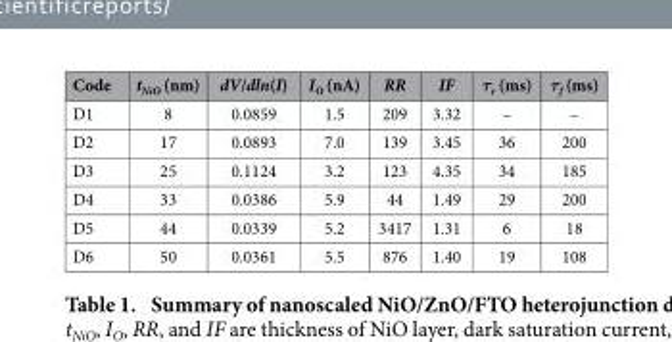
<table><thead><tr><td>Code</td><td>t<sub>NiO</sub> (nm)</td><td>dV/dln(I)</td><td>I<sub>O</sub> (nA)</td><td>RR</td><td>IF</td><td>τ<sub>r</sub> (ms)</td><td>τ<sub>f</sub> (ms)</td></tr></thead><tbody><tr><td>D1</td><td>8</td><td>0.0859</td><td>1.5</td><td>209</td><td>3.32</td><td>–</td><td>–</td></tr><tr><td>D2</td><td>17</td><td>0.0893</td><td>7.0</td><td>139</td><td>3.45</td><td>36</td><td>200</td></tr><tr><td>D3</td><td>25</td><td>0.1124</td><td>3.2</td><td>123</td><td>4.35</td><td>34</td><td>185</td></tr><tr><td>D4</td><td>33</td><td>0.0386</td><td>5.9</td><td>44</td><td>1.49</td><td>29</td><td>200</td></tr><tr><td>D5</td><td>44</td><td>0.0339</td><td>5.2</td><td>3417</td><td>1.31</td><td>6</td><td>18</td></tr><tr><td>D6</td><td>50</td><td>0.0361</td><td>5.5</td><td>876</td><td>1.40</td><td>19</td><td>108</td></tr></tbody></table>